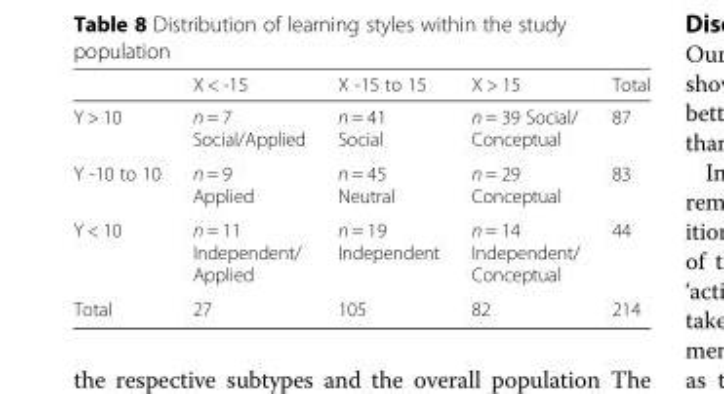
<table><thead><tr><td></td><td>X &lt; -15</td><td>X -15 to 15</td><td>X &gt; 15</td><td>Total</td></tr></thead><tbody><tr><td>Y &gt; 10</td><td>n = 7 Social/Applied</td><td>n = 41 Social</td><td>n = 39 Social/ Conceptual</td><td>87</td></tr><tr><td>Y -10 to 10</td><td>n = 9 Applied</td><td>n = 45 Neutral</td><td>n = 29 Conceptual</td><td>83</td></tr><tr><td>Y &lt; 10</td><td>n = 11 Independent/ Applied</td><td>n = 19 Independent</td><td>n = 14 Independent/ Conceptual</td><td>44</td></tr><tr><td>Total</td><td>27</td><td>105</td><td>82</td><td>214</td></tr></tbody></table>